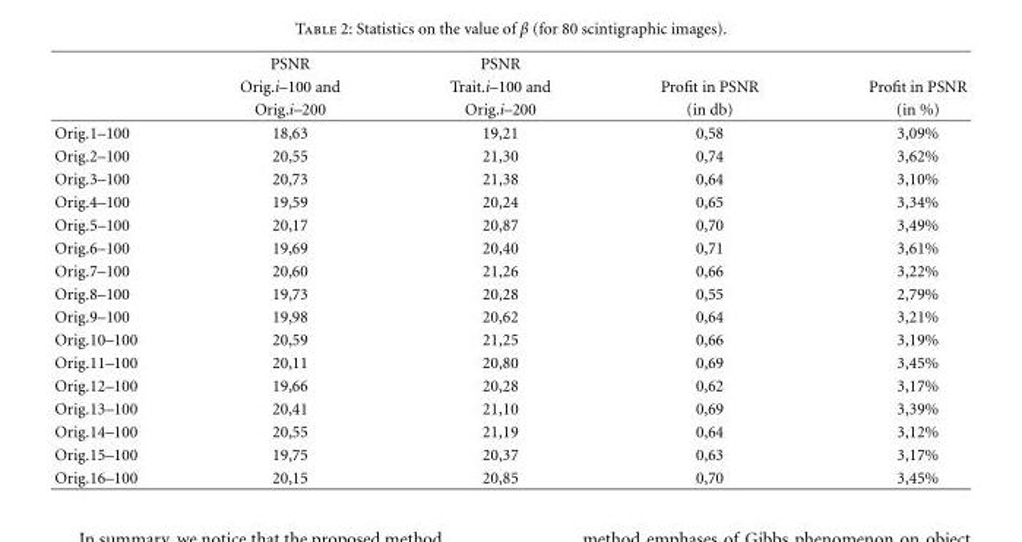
<table><thead><tr><td rowspan="3"></td><td rowspan="3">PSNR Orig.i–100 and Orig.i–200</td><td rowspan="3">PSNR Trait.i–100 and Orig.i–200</td><td rowspan="3">Profit in PSNR (in db)</td><td rowspan="3">Profit in PSNR (in %)</td></tr><tr></tr><tr></tr></thead><tbody><tr><td>Orig.1–100</td><td>18,63</td><td>19,21</td><td>0,58</td><td>3,09%</td></tr><tr><td>Orig.2–100</td><td>20,55</td><td>21,30</td><td>0,74</td><td>3,62%</td></tr><tr><td>Orig.3–100</td><td>20,73</td><td>21,38</td><td>0,64</td><td>3,10%</td></tr><tr><td>Orig.4–100</td><td>19,59</td><td>20,24</td><td>0,65</td><td>3,34%</td></tr><tr><td>Orig.5–100</td><td>20,17</td><td>20,87</td><td>0,70</td><td>3,49%</td></tr><tr><td>Orig.6–100</td><td>19,69</td><td>20,40</td><td>0,71</td><td>3,61%</td></tr><tr><td>Orig.7–100</td><td>20,60</td><td>21,26</td><td>0,66</td><td>3,22%</td></tr><tr><td>Orig.8–100</td><td>19,73</td><td>20,28</td><td>0,55</td><td>2,79%</td></tr><tr><td>Orig.9–100</td><td>19,98</td><td>20,62</td><td>0,64</td><td>3,21%</td></tr><tr><td>Orig.10–100</td><td>20,59</td><td>21,25</td><td>0,66</td><td>3,19%</td></tr><tr><td>Orig.11–100</td><td>20,11</td><td>20,80</td><td>0,69</td><td>3,45%</td></tr><tr><td>Orig.12–100</td><td>19,66</td><td>20,28</td><td>0,62</td><td>3,17%</td></tr><tr><td>Orig.13–100</td><td>20,41</td><td>21,10</td><td>0,69</td><td>3,39%</td></tr><tr><td>Orig.14–100</td><td>20,55</td><td>21,19</td><td>0,64</td><td>3,12%</td></tr><tr><td>Orig.15–100</td><td>19,75</td><td>20,37</td><td>0,63</td><td>3,17%</td></tr><tr><td>Orig.16–100</td><td>20,15</td><td>20,85</td><td>0,70</td><td>3,45%</td></tr></tbody></table>